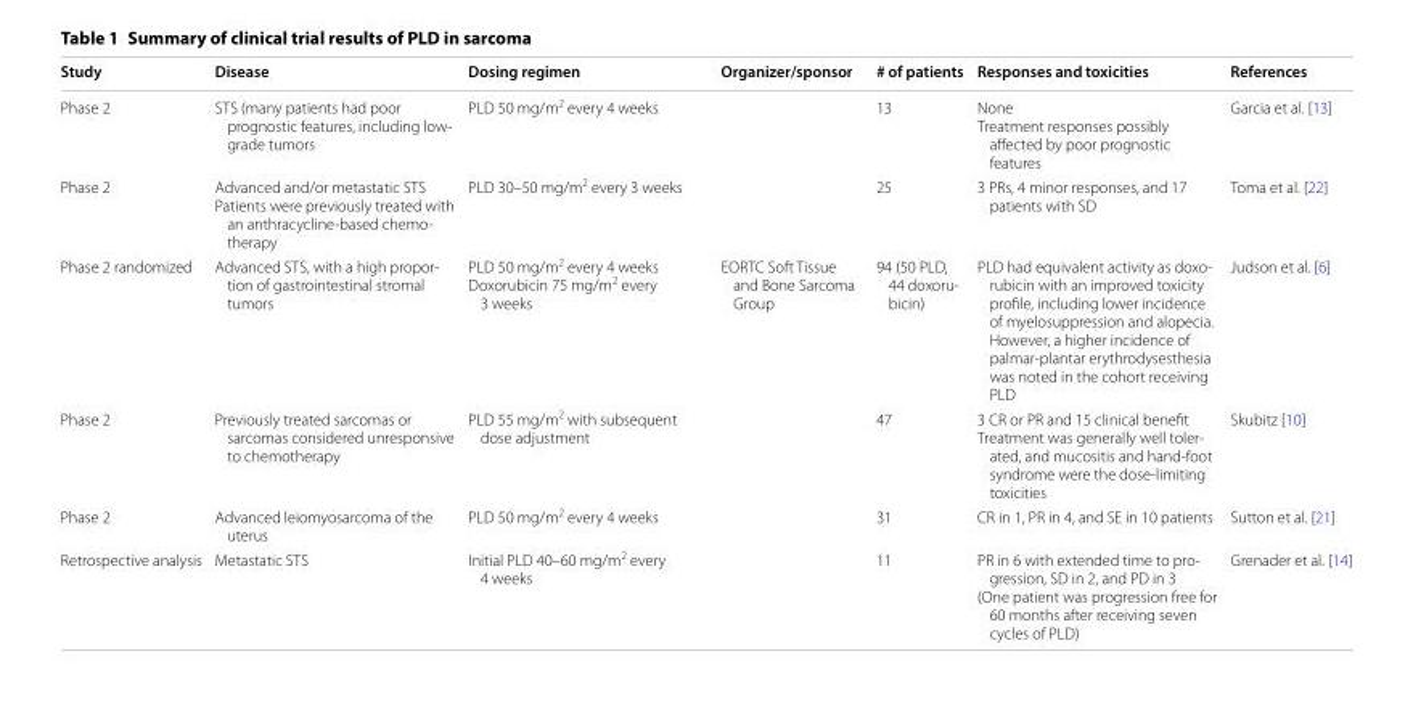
<table><thead><tr><td>Study</td><td>Disease</td><td>Dosing regimen</td><td>Organizer/sponsor</td><td># of patients</td><td>Responses and toxicities</td><td>References</td></tr></thead><tbody><tr><td>Phase 2</td><td>STS (many patients had poor prognostic features, including low- grade tumors</td><td>PLD 50 mg/m<sup>2</sup> every 4 weeks</td><td></td><td>13</td><td>None Treatment responses possibly affected by poor prognostic features</td><td>Garcia et al. [13]</td></tr><tr><td>Phase 2</td><td>Advanced and/or metastatic STS Patients were previously treated with an anthracycline-based chemo- therapy</td><td>PLD 30–50 mg/m<sup>2</sup> every 3 weeks</td><td></td><td>25</td><td>3 PRs, 4 minor responses, and 17 patients with SD</td><td>Toma et al. [22]</td></tr><tr><td>Phase 2 randomized</td><td>Advanced STS, with a high propor- tion of gastrointestinal stromal tumors</td><td>PLD 50 mg/m<sup>2</sup> every 4 weeks Doxorubicin 75 mg/m<sup>2</sup> every 3 weeks</td><td>EORTC Soft Tissue and Bone Sarcoma Group</td><td>94 (50 PLD, 44 doxoru- bicin)</td><td>PLD had equivalent activity as doxo- rubicin with an improved toxicity profile, including lower incidence of myelosuppression and alopecia. However, a higher incidence of palmar-plantar erythrodysesthesia was noted in the cohort receiving PLD</td><td>Judson et al. [6]</td></tr><tr><td>Phase 2</td><td>Previously treated sarcomas or sarcomas considered unresponsive to chemotherapy</td><td>PLD 55 mg/m<sup>2</sup> with subsequent dose adjustment</td><td></td><td>47</td><td>3 CR or PR and 15 clinical benefit Treatment was generally well toler- ated, and mucositis and hand-foot syndrome were the dose-limiting toxicities</td><td>Skubitz [10]</td></tr><tr><td>Phase 2</td><td>Advanced leiomyosarcoma of the uterus</td><td>PLD 50 mg/m<sup>2</sup> every 4 weeks</td><td></td><td>31</td><td>CR in 1, PR in 4, and SE in 10 patients</td><td>Sutton et al. [21]</td></tr><tr><td>Retrospective analysis</td><td>Metastatic STS</td><td>Initial PLD 40–60 mg/m<sup>2</sup> every 4 weeks</td><td></td><td>11</td><td>PR in 6 with extended time to pro- gression, SD in 2, and PD in 3 (One patient was progression free for 60 months after receiving seven cycles of PLD)</td><td>Grenader et al. [14]</td></tr></tbody></table>